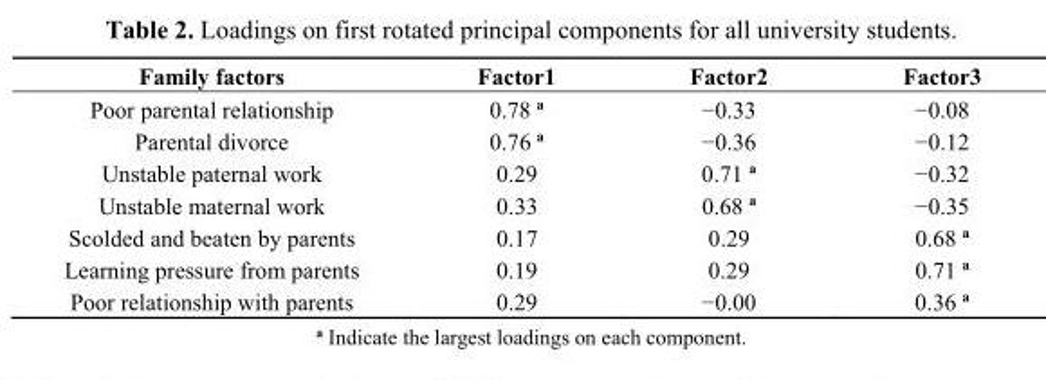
<table><thead><tr><td>Family factors</td><td>Factor1</td><td>Factor2</td><td>Factor3</td></tr></thead><tbody><tr><td>Poor parental relationship</td><td>0.78 <sup>a</sup></td><td>−0.33</td><td>−0.08</td></tr><tr><td>Parental divorce</td><td>0.76 <sup>a</sup></td><td>−0.36</td><td>−0.12</td></tr><tr><td>Unstable paternal work</td><td>0.29</td><td>0.71 <sup>a</sup></td><td>−0.32</td></tr><tr><td>Unstable maternal work</td><td>0.33</td><td>0.68 <sup>a</sup></td><td>−0.35</td></tr><tr><td>Scolded and beaten by parents</td><td>0.17</td><td>0.29</td><td>0.68 <sup>a</sup></td></tr><tr><td>Learning pressure from parents</td><td>0.19</td><td>0.29</td><td>0.71 <sup>a</sup></td></tr><tr><td>Poor relationship with parents</td><td>0.29</td><td>−0.00</td><td>0.36 <sup>a</sup></td></tr></tbody></table>